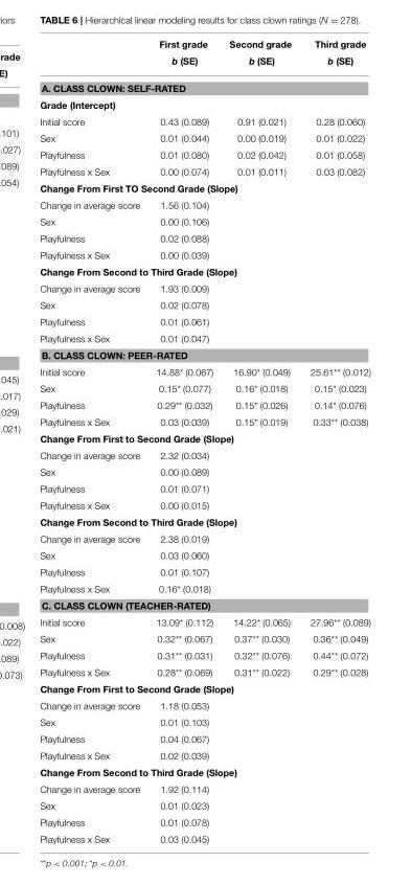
<table><thead><tr><td></td><td>First grade b (SE)</td><td>Second grade b (SE)</td><td>Third grade b (SE)</td></tr></thead><tbody><tr><td colspan="4">A. CLASS CLOWN: SELF-RATED</td></tr><tr><td colspan="4">Grade (Intercept)</td></tr><tr><td>Initial score</td><td>0.43 (0.089)</td><td>0.91 (0.021)</td><td>0.28 (0.060)</td></tr><tr><td>Sex</td><td>0.01 (0.044)</td><td>0.00 (0.019)</td><td>0.01 (0.022)</td></tr><tr><td>Playfulness</td><td>0.01 (0.080)</td><td>0.02 (0.042)</td><td>0.01 (0.058)</td></tr><tr><td>Playfulness x Sex</td><td>0.00 (0.074)</td><td>0.01 (0.011)</td><td>0.03 (0.082)</td></tr><tr><td colspan="4">Change From First TO Second Grade (Slope)</td></tr><tr><td>Change in average score</td><td>1.56 (0.104)</td><td colspan="2"></td></tr><tr><td>Sex</td><td>0.00 (0.106)</td><td colspan="2"></td></tr><tr><td>Playfulness</td><td>0.02 (0.088)</td><td colspan="2"></td></tr><tr><td>Playfulness x Sex</td><td>0.00 (0.039)</td><td colspan="2"></td></tr><tr><td colspan="4">Change From Second to Third Grade (Slope)</td></tr><tr><td>Change in average score</td><td>1.93 (0.009)</td><td colspan="2"></td></tr><tr><td>Sex</td><td>0.02 (0.078)</td><td colspan="2"></td></tr><tr><td>Playfulness</td><td>0.01 (0.061)</td><td colspan="2"></td></tr><tr><td>Playfulness x Sex</td><td>0.01 (0.047)</td><td colspan="2"></td></tr><tr><td colspan="4">B. CLASS CLOWN: PEER-RATED</td></tr><tr><td>Initial score</td><td>14.88* (0.067)</td><td>16.90* (0.049)</td><td>25.61** (0.012)</td></tr><tr><td>Sex</td><td>0.15* (0.077)</td><td>0.16* (0.018)</td><td>0.15* (0.023)</td></tr><tr><td>Playfulness</td><td>0.29** (0.032)</td><td>0.15* (0.026)</td><td>0.14* (0.076)</td></tr><tr><td>Playfulness x Sex</td><td>0.03 (0.039)</td><td>0.15* (0.019)</td><td>0.33** (0.038)</td></tr><tr><td colspan="4">Change From First to Second Grade (Slope)</td></tr><tr><td>Change in average score</td><td>2.32 (0.034)</td><td colspan="2"></td></tr><tr><td>Sex</td><td>0.00 (0.089)</td><td colspan="2"></td></tr><tr><td>Playfulness</td><td>0.01 (0.071)</td><td colspan="2"></td></tr><tr><td>Playfulness x Sex</td><td>0.00 (0.015)</td><td colspan="2"></td></tr><tr><td colspan="4">Change From Second to Third Grade (Slope)</td></tr><tr><td>Change in average score</td><td>2.38 (0.019)</td><td colspan="2"></td></tr><tr><td>Sex</td><td>0.03 (0.060)</td><td colspan="2"></td></tr><tr><td>Playfulness</td><td>0.01 (0.107)</td><td colspan="2"></td></tr><tr><td>Playfulness x Sex</td><td>0.16* (0.018)</td><td colspan="2"></td></tr><tr><td colspan="4">C. CLASS CLOWN (TEACHER-RATED)</td></tr><tr><td>Initial score</td><td>13.09* (0.112)</td><td>14.22* (0.065)</td><td>27.96** (0.089)</td></tr><tr><td>Sex</td><td>0.32** (0.067)</td><td>0.37** (0.030)</td><td>0.36** (0.049)</td></tr><tr><td>Playfulness</td><td>0.31** (0.031)</td><td>0.32** (0.076)</td><td>0.44** (0.072)</td></tr><tr><td>Playfulness x Sex</td><td>0.28** (0.069)</td><td>0.31** (0.022)</td><td>0.29** (0.028)</td></tr><tr><td colspan="4">Change From First to Second Grade (Slope)</td></tr><tr><td>Change in average score</td><td>1.18 (0.053)</td><td colspan="2"></td></tr><tr><td>Sex</td><td>0.01 (0.103)</td><td colspan="2"></td></tr><tr><td>Playfulness</td><td>0.04 (0.067)</td><td colspan="2"></td></tr><tr><td>Playfulness x Sex</td><td>0.02 (0.039)</td><td colspan="2"></td></tr><tr><td colspan="4">Change From Second to Third Grade (Slope)</td></tr><tr><td>Change in average score</td><td>1.92 (0.114)</td><td colspan="2"></td></tr><tr><td>Sex</td><td>0.01 (0.023)</td><td colspan="2"></td></tr><tr><td>Playfulness</td><td>0.01 (0.078)</td><td colspan="2"></td></tr><tr><td>Playfulness x Sex</td><td>0.03 (0.045)</td><td colspan="2"></td></tr></tbody></table>